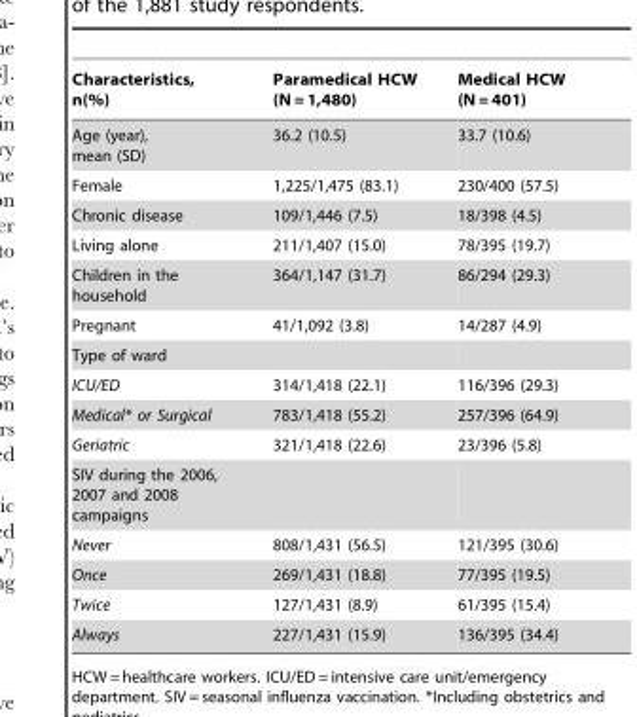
<table><thead><tr><td>Characteristics, n(%)</td><td>Paramedical HCW (N = 1,480)</td><td>Medical HCW (N = 401)</td></tr></thead><tbody><tr><td>Age (year), mean (SD)</td><td>36.2 (10.5)</td><td>33.7 (10.6)</td></tr><tr><td>Female</td><td>1,225/1,475 (83.1)</td><td>230/400 (57.5)</td></tr><tr><td>Chronic disease</td><td>109/1,446 (7.5)</td><td>18/398 (4.5)</td></tr><tr><td>Living alone</td><td>211/1,407 (15.0)</td><td>78/395 (19.7)</td></tr><tr><td>Children in the household</td><td>364/1,147 (31.7)</td><td>86/294 (29.3)</td></tr><tr><td>Pregnant</td><td>41/1,092 (3.8)</td><td>14/287 (4.9)</td></tr><tr><td colspan="3">Type of ward</td></tr><tr><td>ICU/ED</td><td>314/1,418 (22.1)</td><td>116/396 (29.3)</td></tr><tr><td>Medical* or Surgical</td><td>783/1,418 (55.2)</td><td>257/396 (64.9)</td></tr><tr><td>Geriatric</td><td>321/1,418 (22.6)</td><td>23/396 (5.8)</td></tr><tr><td colspan="3">SIV during the 2006, 2007 and 2008 campaigns</td></tr><tr><td>Never</td><td>808/1,431 (56.5)</td><td>121/395 (30.6)</td></tr><tr><td>Once</td><td>269/1,431 (18.8)</td><td>77/395 (19.5)</td></tr><tr><td>Twice</td><td>127/1,431 (8.9)</td><td>61/395 (15.4)</td></tr><tr><td>Always</td><td>227/1,431 (15.9)</td><td>136/395 (34.4)</td></tr></tbody></table>